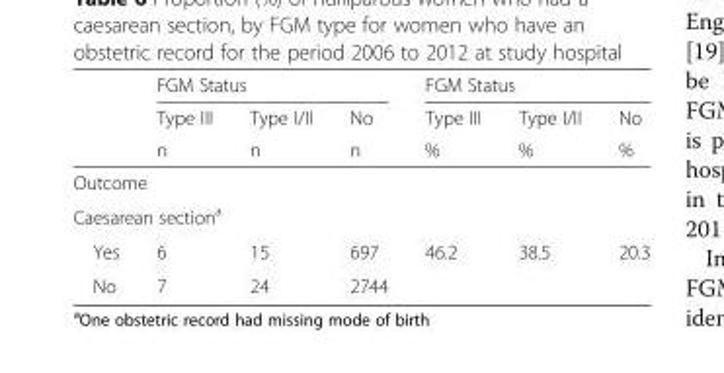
<table><thead><tr><td rowspan="3"></td><td colspan="3">FGM Status</td><td colspan="3">FGM Status</td></tr><tr><td rowspan="2">Type III n</td><td rowspan="2">Type I/II n</td><td rowspan="2">No n</td><td rowspan="2">Type III %</td><td rowspan="2">Type I/II %</td><td rowspan="2">No %</td></tr><tr></tr></thead><tbody><tr><td colspan="7">Outcome</td></tr><tr><td colspan="7">Caesarean section<sup>a</sup></td></tr><tr><td>Yes</td><td>6</td><td>15</td><td>697</td><td>46.2</td><td>38.5</td><td>20.3</td></tr><tr><td>No</td><td>7</td><td>24</td><td>2744</td><td></td><td></td><td></td></tr></tbody></table>